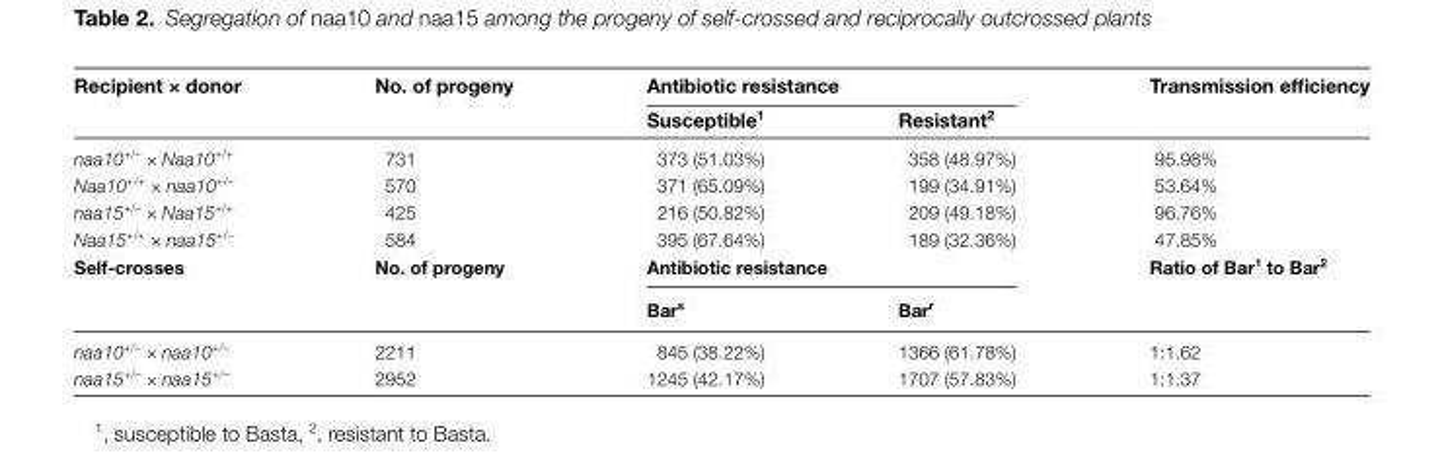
<table><thead><tr><td rowspan="2">Recipient × donor</td><td rowspan="2">No. of progeny</td><td colspan="2">Antibiotic resistance</td><td rowspan="2">Transmission efficiency</td></tr><tr><td>Susceptible<sup>1</sup></td><td>Resistant<sup>2</sup></td></tr></thead><tbody><tr><td>naa10<sup>+/–</sup> × Naa10<sup>+/+</sup></td><td>731</td><td>373 (51.03%)</td><td>358 (48.97%)</td><td>95.98%</td></tr><tr><td>Naa10<sup>+/+</sup> × naa10<sup>+/–</sup></td><td>570</td><td>371 (65.09%)</td><td>199 (34.91%)</td><td>53.64%</td></tr><tr><td>naa15<sup>+/–</sup> × Naa15<sup>+/+</sup></td><td>425</td><td>216 (50.82%)</td><td>209 (49.18%)</td><td>96.76%</td></tr><tr><td>Naa15<sup>+/+</sup> × naa15<sup>+/–</sup></td><td>584</td><td>395 (67.64%)</td><td>189 (32.36%)</td><td>47.85%</td></tr><tr><td rowspan="2">Self-crosses</td><td rowspan="2">No. of progeny</td><td colspan="2">Antibiotic resistance</td><td rowspan="2">Ratio of Bar<sup>1</sup> to Bar<sup>2</sup></td></tr><tr><td>Bar<sup>s</sup></td><td>Bar<sup>r</sup></td></tr><tr><td>naa10<sup>+/–</sup> × naa10<sup>+/–</sup></td><td>2211</td><td>845 (38.22%)</td><td>1366 (61.78%)</td><td>1:1.62</td></tr><tr><td>naa15<sup>+/–</sup> × naa15<sup>+/–</sup></td><td>2952</td><td>1245 (42.17%)</td><td>1707 (57.83%)</td><td>1:1.37</td></tr></tbody></table>